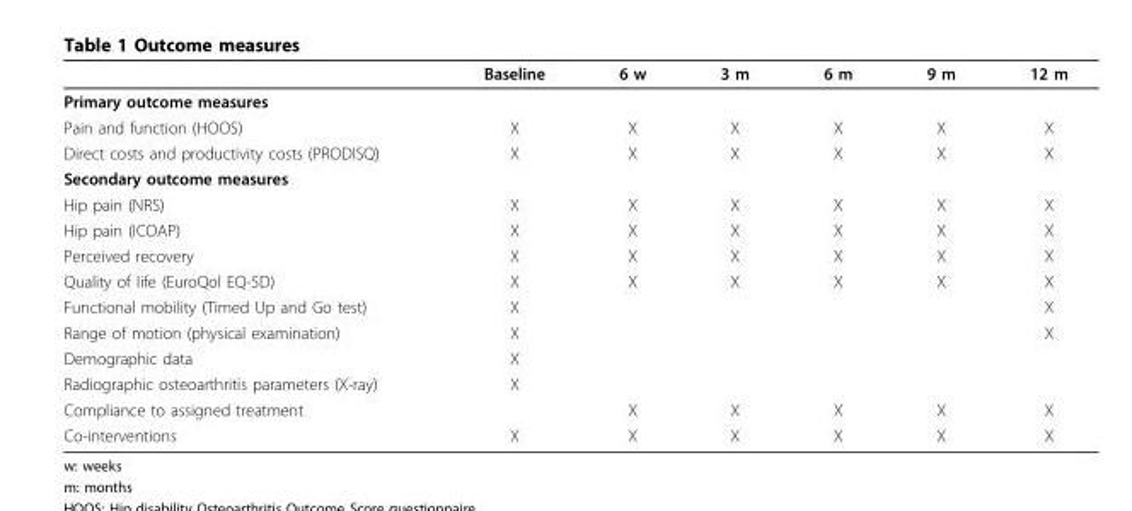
<table><thead><tr><td></td><td>Baseline</td><td>6 w</td><td>3 m</td><td>6 m</td><td>9 m</td><td>12 m</td></tr></thead><tbody><tr><td colspan="7">Primary outcome measures</td></tr><tr><td>Pain and function (HOOS)</td><td>X</td><td>X</td><td>X</td><td>X</td><td>X</td><td>X</td></tr><tr><td>Direct costs and productivity costs (PRODISQ)</td><td>X</td><td>X</td><td>X</td><td>X</td><td>X</td><td>X</td></tr><tr><td colspan="7">Secondary outcome measures</td></tr><tr><td>Hip pain (NRS)</td><td>X</td><td>X</td><td>X</td><td>X</td><td>X</td><td>X</td></tr><tr><td>Hip pain (ICOAP)</td><td>X</td><td>X</td><td>X</td><td>X</td><td>X</td><td>X</td></tr><tr><td>Perceived recovery</td><td>X</td><td>X</td><td>X</td><td>X</td><td>X</td><td>X</td></tr><tr><td>Quality of life (EuroQol EQ-5D)</td><td>X</td><td>X</td><td>X</td><td>X</td><td>X</td><td>X</td></tr><tr><td>Functional mobility (Timed Up and Go test)</td><td>X</td><td></td><td></td><td></td><td></td><td>X</td></tr><tr><td>Range of motion (physical examination)</td><td>X</td><td></td><td></td><td></td><td></td><td>X</td></tr><tr><td>Demographic data</td><td>X</td><td></td><td></td><td></td><td></td><td></td></tr><tr><td>Radiographic osteoarthritis parameters (X-ray)</td><td>X</td><td></td><td></td><td></td><td></td><td></td></tr><tr><td>Compliance to assigned treatment</td><td></td><td>X</td><td>X</td><td>X</td><td>X</td><td>X</td></tr><tr><td>Co-interventions</td><td>X</td><td>X</td><td>X</td><td>X</td><td>X</td><td>X</td></tr></tbody></table>